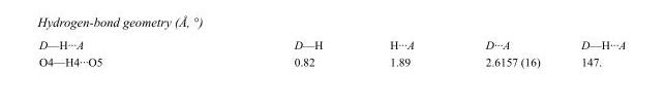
<table><tbody><tr><td>D—H···A</td><td>D—H</td><td>H···A</td><td>D···A</td><td>D—H···A</td></tr><tr><td>O4—H4···O5</td><td>0.82</td><td>1.89</td><td>2.6157 (16)</td><td>147.</td></tr></tbody></table>